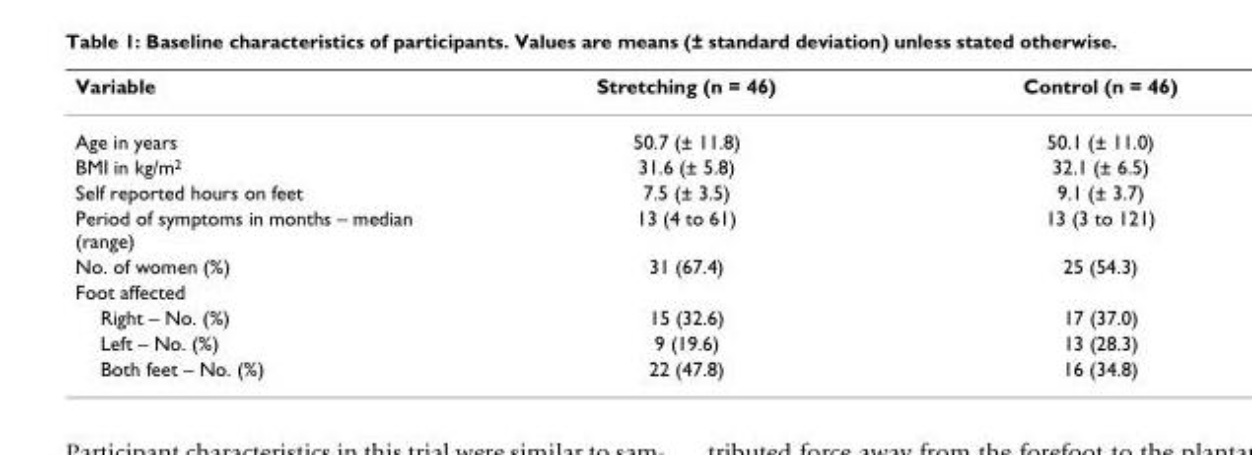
<table><thead><tr><td>Variable</td><td>Stretching (n = 46)</td><td>Control (n = 46)</td></tr></thead><tbody><tr><td>Age in years</td><td>50.7 (± 11.8)</td><td>50.1 (± 11.0)</td></tr><tr><td>BMI in kg/m2</td><td>31.6 (± 5.8)</td><td>32.1 (± 6.5)</td></tr><tr><td>Self reported hours on feet</td><td>7.5 (± 3.5)</td><td>9.1 (± 3.7)</td></tr><tr><td>Period of symptoms in months – median (range)</td><td>13 (4 to 61)</td><td>13 (3 to 121)</td></tr><tr><td>No. of women (%)</td><td>31 (67.4)</td><td>25 (54.3)</td></tr><tr><td colspan="3">Foot affected</td></tr><tr><td>Right – No. (%)</td><td>15 (32.6)</td><td>17 (37.0)</td></tr><tr><td>Left – No. (%)</td><td>9 (19.6)</td><td>13 (28.3)</td></tr><tr><td>Both feet – No. (%)</td><td>22 (47.8)</td><td>16 (34.8)</td></tr></tbody></table>